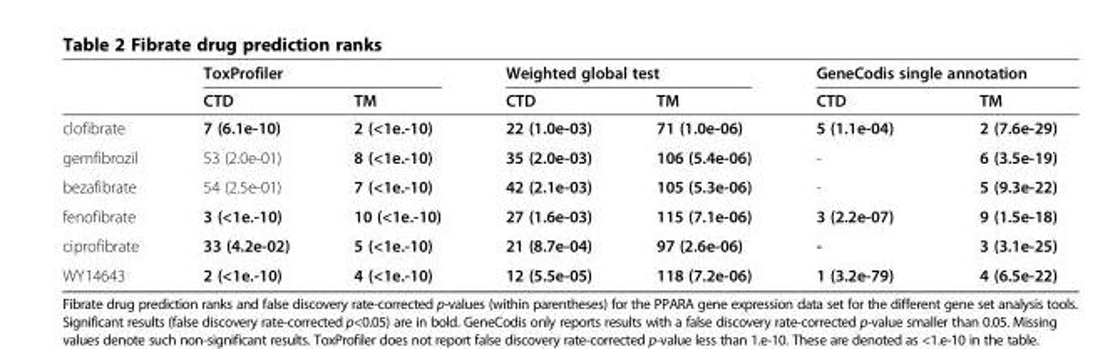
<table><thead><tr><td rowspan="2"></td><td colspan="2">ToxProfiler</td><td colspan="2">Weighted global test</td><td colspan="2">GeneCodis single annotation</td></tr><tr><td>CTD</td><td>TM</td><td>CTD</td><td>TM</td><td>CTD</td><td>TM</td></tr></thead><tbody><tr><td>clofibrate</td><td>7 (6.1e-10)</td><td>2 (&lt;1e.-10)</td><td>22 (1.0e-03)</td><td>71 (1.0e-06)</td><td>5 (1.1e-04)</td><td>2 (7.6e-29)</td></tr><tr><td>gemfibrozil</td><td>53 (2.0e-01)</td><td>8 (&lt;1e.-10)</td><td>35 (2.0e-03)</td><td>106 (5.4e-06)</td><td>-</td><td>6 (3.5e-19)</td></tr><tr><td>bezafibrate</td><td>54 (2.5e-01)</td><td>7 (&lt;1e.-10)</td><td>42 (2.1e-03)</td><td>105 (5.3e-06)</td><td>-</td><td>5 (9.3e-22)</td></tr><tr><td>fenofibrate</td><td>3 (&lt;1e.-10)</td><td>10 (&lt;1e.-10)</td><td>27 (1.6e-03)</td><td>115 (7.1e-06)</td><td>3 (2.2e-07)</td><td>9 (1.5e-18)</td></tr><tr><td>ciprofibrate</td><td>33 (4.2e-02)</td><td>5 (&lt;1e.-10)</td><td>21 (8.7e-04)</td><td>97 (2.6e-06)</td><td>-</td><td>3 (3.1e-25)</td></tr><tr><td>WY14643</td><td>2 (&lt;1e.-10)</td><td>4 (&lt;1e.-10)</td><td>12 (5.5e-05)</td><td>118 (7.2e-06)</td><td>1 (3.2e-79)</td><td>4 (6.5e-22)</td></tr></tbody></table>